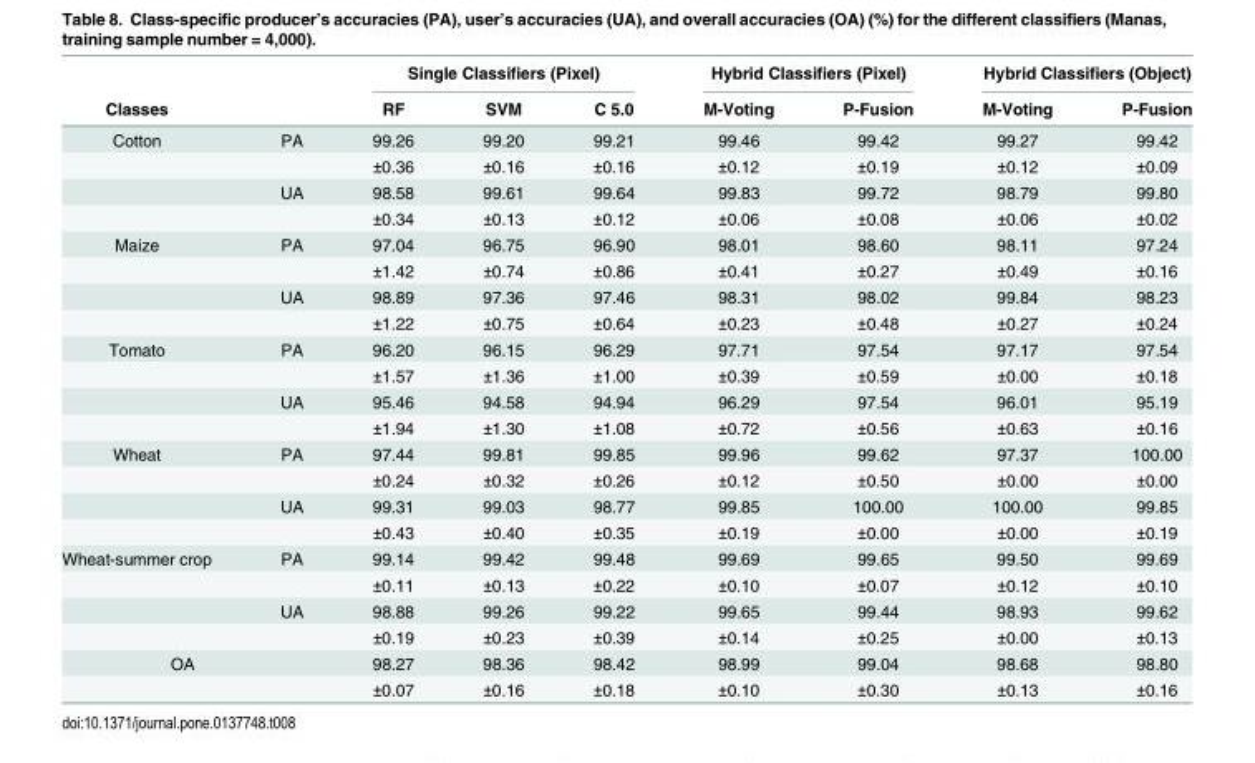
<table><thead><tr><td rowspan="2">Classes</td><td rowspan="2"></td><td colspan="3">Single Classifiers (Pixel)</td><td colspan="2">Hybrid Classifiers (Pixel)</td><td colspan="2">Hybrid Classifiers (Object)</td></tr><tr><td>RF</td><td>SVM</td><td>C 5.0</td><td>M-Voting</td><td>P-Fusion</td><td>M-Voting</td><td>P-Fusion</td></tr></thead><tbody><tr><td rowspan="4">Cotton</td><td>PA</td><td>99.26</td><td>99.20</td><td>99.21</td><td>99.46</td><td>99.42</td><td>99.27</td><td>99.42</td></tr><tr><td></td><td>±0.36</td><td>±0.16</td><td>±0.16</td><td>±0.12</td><td>±0.19</td><td>±0.12</td><td>±0.09</td></tr><tr><td>UA</td><td>98.58</td><td>99.61</td><td>99.64</td><td>99.83</td><td>99.72</td><td>98.79</td><td>99.80</td></tr><tr><td></td><td>±0.34</td><td>±0.13</td><td>±0.12</td><td>±0.06</td><td>±0.08</td><td>±0.06</td><td>±0.02</td></tr><tr><td rowspan="4">Maize</td><td>PA</td><td>97.04</td><td>96.75</td><td>96.90</td><td>98.01</td><td>98.60</td><td>98.11</td><td>97.24</td></tr><tr><td></td><td>±1.42</td><td>±0.74</td><td>±0.86</td><td>±0.41</td><td>±0.27</td><td>±0.49</td><td>±0.16</td></tr><tr><td>UA</td><td>98.89</td><td>97.36</td><td>97.46</td><td>98.31</td><td>98.02</td><td>99.84</td><td>98.23</td></tr><tr><td></td><td>±1.22</td><td>±0.75</td><td>±0.64</td><td>±0.23</td><td>±0.48</td><td>±0.27</td><td>±0.24</td></tr><tr><td rowspan="4">Tomato</td><td>PA</td><td>96.20</td><td>96.15</td><td>96.29</td><td>97.71</td><td>97.54</td><td>97.17</td><td>97.54</td></tr><tr><td></td><td>±1.57</td><td>±1.36</td><td>±1.00</td><td>±0.39</td><td>±0.59</td><td>±0.00</td><td>±0.18</td></tr><tr><td>UA</td><td>95.46</td><td>94.58</td><td>94.94</td><td>96.29</td><td>97.54</td><td>96.01</td><td>95.19</td></tr><tr><td></td><td>±1.94</td><td>±1.30</td><td>±1.08</td><td>±0.72</td><td>±0.56</td><td>±0.63</td><td>±0.16</td></tr><tr><td rowspan="4">Wheat</td><td>PA</td><td>97.44</td><td>99.81</td><td>99.85</td><td>99.96</td><td>99.62</td><td>97.37</td><td>100.00</td></tr><tr><td></td><td>±0.24</td><td>±0.32</td><td>±0.26</td><td>±0.12</td><td>±0.50</td><td>±0.00</td><td>±0.00</td></tr><tr><td>UA</td><td>99.31</td><td>99.03</td><td>98.77</td><td>99.85</td><td>100.00</td><td>100.00</td><td>99.85</td></tr><tr><td></td><td>±0.43</td><td>±0.40</td><td>±0.35</td><td>±0.19</td><td>±0.00</td><td>±0.00</td><td>±0.19</td></tr><tr><td rowspan="4">Wheat-summer crop</td><td>PA</td><td>99.14</td><td>99.42</td><td>99.48</td><td>99.69</td><td>99.65</td><td>99.50</td><td>99.69</td></tr><tr><td></td><td>±0.11</td><td>±0.13</td><td>±0.22</td><td>±0.10</td><td>±0.07</td><td>±0.12</td><td>±0.10</td></tr><tr><td>UA</td><td>98.88</td><td>99.26</td><td>99.22</td><td>99.65</td><td>99.44</td><td>98.93</td><td>99.62</td></tr><tr><td></td><td>±0.19</td><td>±0.23</td><td>±0.39</td><td>±0.14</td><td>±0.25</td><td>±0.00</td><td>±0.13</td></tr><tr><td rowspan="2" colspan="2">OA</td><td>98.27</td><td>98.36</td><td>98.42</td><td>98.99</td><td>99.04</td><td>98.68</td><td>98.80</td></tr><tr><td>±0.07</td><td>±0.16</td><td>±0.18</td><td>±0.10</td><td>±0.30</td><td>±0.13</td><td>±0.16</td></tr></tbody></table>